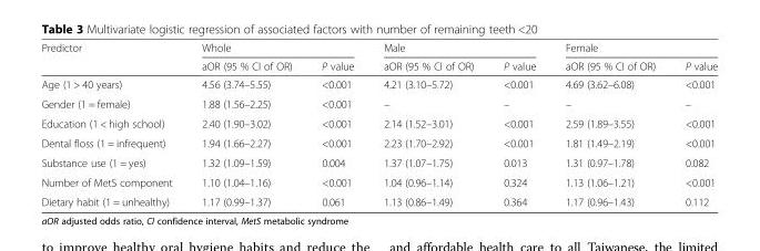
<table><thead><tr><td rowspan="2">Predictor</td><td colspan="2">Whole</td><td colspan="2">Male</td><td colspan="2">Female</td></tr><tr><td>aOR (95 % CI of OR)</td><td>P value</td><td>aOR (95 % CI of OR)</td><td>P value</td><td>aOR (95 % CI of OR)</td><td>P value</td></tr></thead><tbody><tr><td>Age (1 &gt; 40 years)</td><td>4.56 (3.74–5.55)</td><td>&lt;0.001</td><td>4.21 (3.10–5.72)</td><td>&lt;0.001</td><td>4.69 (3.62–6.08)</td><td>&lt;0.001</td></tr><tr><td>Gender (1 = female)</td><td>1.88 (1.56–2.25)</td><td>&lt;0.001</td><td>–</td><td>–</td><td>–</td><td>–</td></tr><tr><td>Education (1 &lt; high school)</td><td>2.40 (1.90–3.02)</td><td>&lt;0.001</td><td>2.14 (1.52–3.01)</td><td>&lt;0.001</td><td>2.59 (1.89–3.55)</td><td>&lt;0.001</td></tr><tr><td>Dental floss (1 = infrequent)</td><td>1.94 (1.66–2.27)</td><td>&lt;0.001</td><td>2.23 (1.70–2.92)</td><td>&lt;0.001</td><td>1.81 (1.49–2.19)</td><td>&lt;0.001</td></tr><tr><td>Substance use (1 = yes)</td><td>1.32 (1.09–1.59)</td><td>0.004</td><td>1.37 (1.07–1.75)</td><td>0.013</td><td>1.31 (0.97–1.78)</td><td>0.082</td></tr><tr><td>Number of MetS component</td><td>1.10 (1.04–1.16)</td><td>&lt;0.001</td><td>1.04 (0.96–1.14)</td><td>0.324</td><td>1.13 (1.06–1.21)</td><td>&lt;0.001</td></tr><tr><td>Dietary habit (1 = unhealthy)</td><td>1.17 (0.99–1.37)</td><td>0.061</td><td>1.13 (0.86–1.49)</td><td>0.364</td><td>1.17 (0.96–1.43)</td><td>0.112</td></tr></tbody></table>